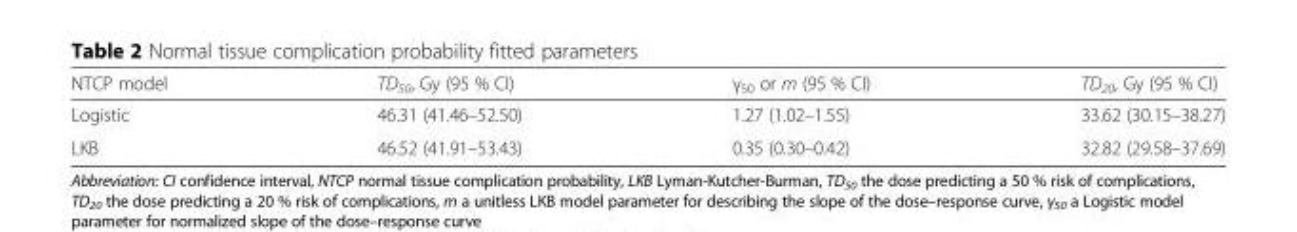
<table><thead><tr><td>NTCP model</td><td>TD<sub>50</sub>, Gy (95 % CI)</td><td>γ<sub>50</sub> or m (95 % CI)</td><td>TD<sub>20</sub>, Gy (95 % CI)</td></tr></thead><tbody><tr><td>Logistic</td><td>46.31 (41.46–52.50)</td><td>1.27 (1.02–1.55)</td><td>33.62 (30.15–38.27)</td></tr><tr><td>LKB</td><td>46.52 (41.91–53.43)</td><td>0.35 (0.30–0.42)</td><td>32.82 (29.58–37.69)</td></tr></tbody></table>